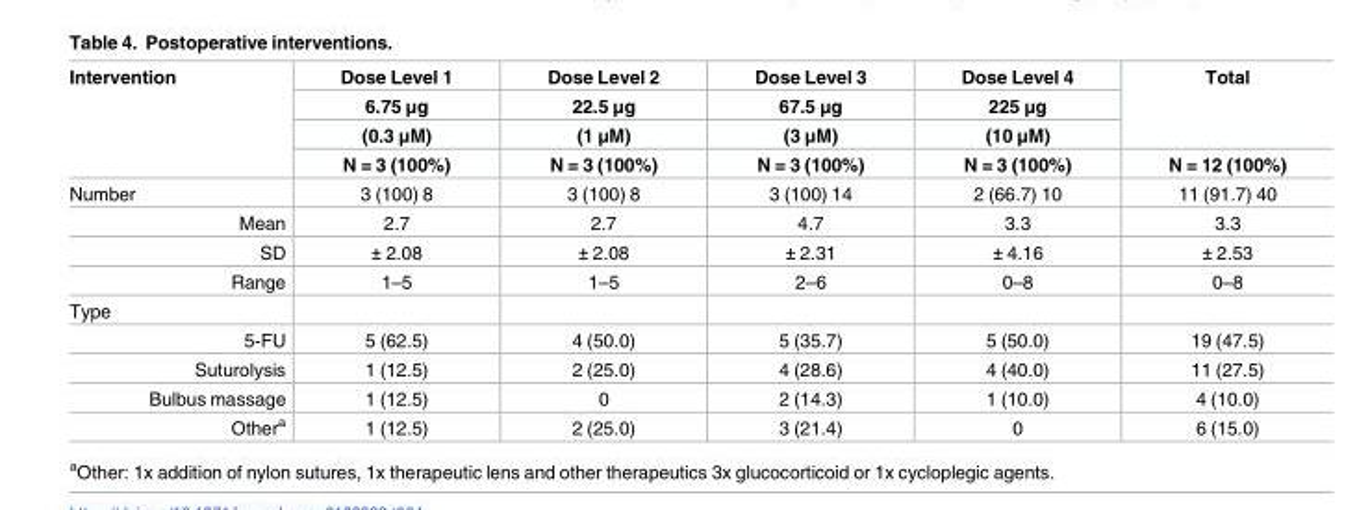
<table><thead><tr><td rowspan="4">Intervention</td><td rowspan="4">Dose Level 1 6.75 μg (0.3 μM) N = 3 (100%)</td><td rowspan="4">Dose Level 2 22.5 μg (1 μM) N = 3 (100%)</td><td rowspan="4">Dose Level 3 67.5 μg (3 μM) N = 3 (100%)</td><td rowspan="4">Dose Level 4 225 μg (10 μM) N = 3 (100%)</td><td rowspan="4">Total N = 12 (100%)</td></tr><tr></tr><tr></tr><tr></tr></thead><tbody><tr><td>Number</td><td>3 (100) 8</td><td>3 (100) 8</td><td>3 (100) 14</td><td>2 (66.7) 10</td><td>11 (91.7) 40</td></tr><tr><td>Mean</td><td>2.7</td><td>2.7</td><td>4.7</td><td>3.3</td><td>3.3</td></tr><tr><td>SD</td><td>± 2.08</td><td>± 2.08</td><td>± 2.31</td><td>± 4.16</td><td>± 2.53</td></tr><tr><td>Range</td><td>1–5</td><td>1–5</td><td>2–6</td><td>0–8</td><td>0–8</td></tr><tr><td colspan="6">Type</td></tr><tr><td>5-FU</td><td>5 (62.5)</td><td>4 (50.0)</td><td>5 (35.7)</td><td>5 (50.0)</td><td>19 (47.5)</td></tr><tr><td>Suturolysis</td><td>1 (12.5)</td><td>2 (25.0)</td><td>4 (28.6)</td><td>4 (40.0)</td><td>11 (27.5)</td></tr><tr><td>Bulbus massage</td><td>1 (12.5)</td><td>0</td><td>2 (14.3)</td><td>1 (10.0)</td><td>4 (10.0)</td></tr><tr><td>Other<sup>a</sup></td><td>1 (12.5)</td><td>2 (25.0)</td><td>3 (21.4)</td><td>0</td><td>6 (15.0)</td></tr></tbody></table>